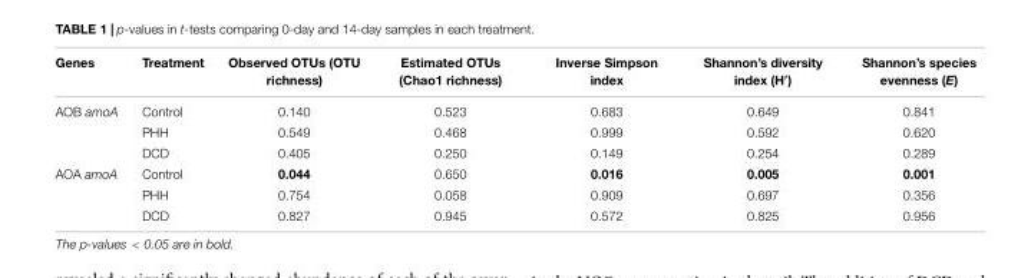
<table><thead><tr><td>Genes</td><td>Treatment</td><td>Observed OTUs (OTU richness)</td><td>Estimated OTUs (Chao1 richness)</td><td>Inverse Simpson index</td><td>Shannon’s diversity index (H′)</td><td>Shannon’s species evenness (E)</td></tr></thead><tbody><tr><td rowspan="3">AOB amoA</td><td>Control</td><td>0.140</td><td>0.523</td><td>0.683</td><td>0.649</td><td>0.841</td></tr><tr><td>PHH</td><td>0.549</td><td>0.468</td><td>0.999</td><td>0.592</td><td>0.620</td></tr><tr><td>DCD</td><td>0.405</td><td>0.250</td><td>0.149</td><td>0.254</td><td>0.289</td></tr><tr><td rowspan="3">AOA amoA</td><td>Control</td><td>0.044</td><td>0.650</td><td>0.016</td><td>0.005</td><td>0.001</td></tr><tr><td>PHH</td><td>0.754</td><td>0.058</td><td>0.909</td><td>0.697</td><td>0.356</td></tr><tr><td>DCD</td><td>0.827</td><td>0.945</td><td>0.572</td><td>0.825</td><td>0.956</td></tr></tbody></table>